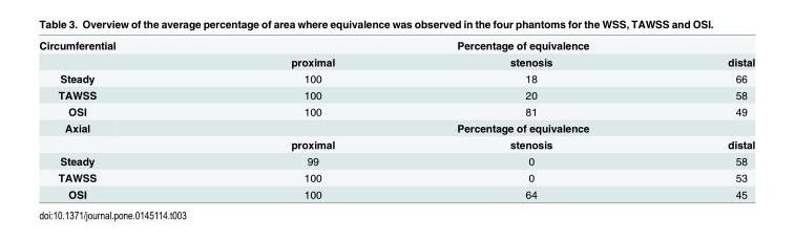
<table><tbody><tr><td rowspan="2">Circumferential</td><td colspan="3">Percentage of equivalence</td></tr><tr><td>proximal</td><td>stenosis</td><td>distal</td></tr><tr><td>Steady</td><td>100</td><td>18</td><td>66</td></tr><tr><td>TAWSS</td><td>100</td><td>20</td><td>58</td></tr><tr><td>OSI</td><td>100</td><td>81</td><td>49</td></tr><tr><td rowspan="2">Axial</td><td colspan="3">Percentage of equivalence</td></tr><tr><td>proximal</td><td>stenosis</td><td>distal</td></tr><tr><td>Steady</td><td>99</td><td>0</td><td>58</td></tr><tr><td>TAWSS</td><td>100</td><td>0</td><td>53</td></tr><tr><td>OSI</td><td>100</td><td>64</td><td>45</td></tr></tbody></table>